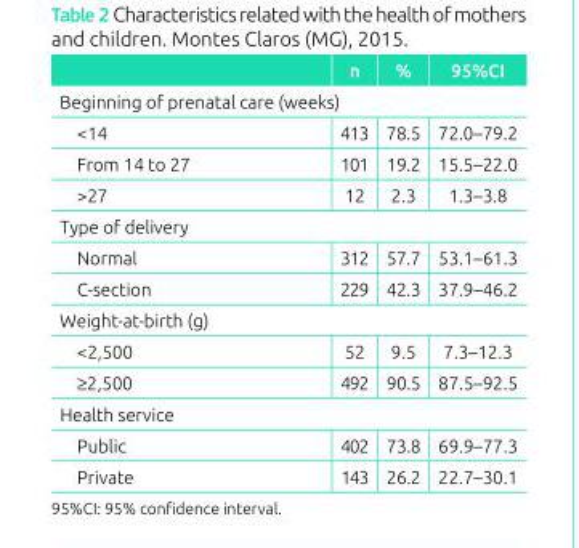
<table><thead><tr><td></td><td>n</td><td>%</td><td>95%CI</td></tr></thead><tbody><tr><td colspan="4">Beginning of prenatal care (weeks)</td></tr><tr><td>&lt;14</td><td>413</td><td>78.5</td><td>72.0–79.2</td></tr><tr><td>From 14 to 27</td><td>101</td><td>19.2</td><td>15.5–22.0</td></tr><tr><td>&gt;27</td><td>12</td><td>2.3</td><td>1.3–3.8</td></tr><tr><td colspan="4">Type of delivery</td></tr><tr><td>Normal</td><td>312</td><td>57.7</td><td>53.1–61.3</td></tr><tr><td>C-section</td><td>229</td><td>42.3</td><td>37.9–46.2</td></tr><tr><td colspan="4">Weight-at-birth (g)</td></tr><tr><td>&lt;2,500</td><td>52</td><td>9.5</td><td>7.3–12.3</td></tr><tr><td>≥2,500</td><td>492</td><td>90.5</td><td>87.5–92.5</td></tr><tr><td colspan="4">Health service</td></tr><tr><td>Public</td><td>402</td><td>73.8</td><td>69.9–77.3</td></tr><tr><td>Private</td><td>143</td><td>26.2</td><td>22.7–30.1</td></tr></tbody></table>